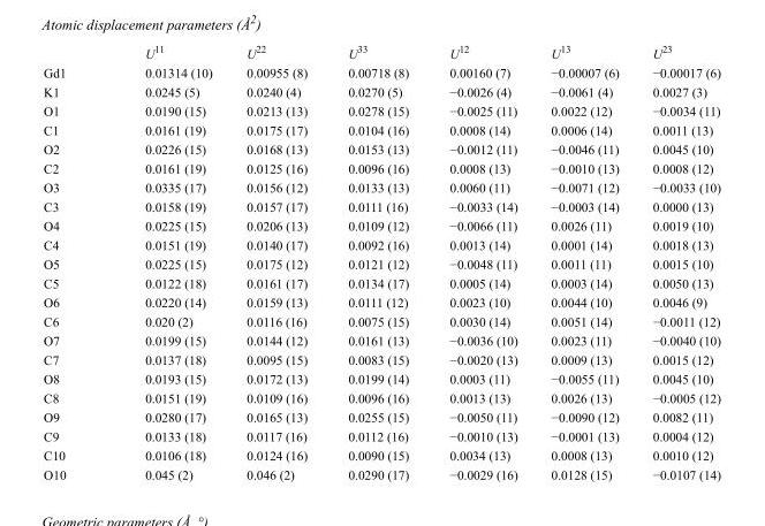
<table><thead><tr><td></td><td>U<sup>11</sup></td><td>U<sup>22</sup></td><td>U<sup>33</sup></td><td>U<sup>12</sup></td><td>U<sup>13</sup></td><td>U<sup>23</sup></td></tr></thead><tbody><tr><td>Gd1</td><td>0.01314 (10)</td><td>0.00955 (8)</td><td>0.00718 (8)</td><td>0.00160 (7)</td><td>−0.00007 (6)</td><td>−0.00017 (6)</td></tr><tr><td>K1</td><td>0.0245 (5)</td><td>0.0240 (4)</td><td>0.0270 (5)</td><td>−0.0026 (4)</td><td>−0.0061 (4)</td><td>0.0027 (3)</td></tr><tr><td>O1</td><td>0.0190 (15)</td><td>0.0213 (13)</td><td>0.0278 (15)</td><td>−0.0025 (11)</td><td>0.0022 (12)</td><td>−0.0034 (11)</td></tr><tr><td>C1</td><td>0.0161 (19)</td><td>0.0175 (17)</td><td>0.0104 (16)</td><td>0.0008 (14)</td><td>0.0006 (14)</td><td>0.0011 (13)</td></tr><tr><td>O2</td><td>0.0226 (15)</td><td>0.0168 (13)</td><td>0.0153 (13)</td><td>−0.0012 (11)</td><td>−0.0046 (11)</td><td>0.0045 (10)</td></tr><tr><td>C2</td><td>0.0161 (19)</td><td>0.0125 (16)</td><td>0.0096 (16)</td><td>0.0008 (13)</td><td>−0.0010 (13)</td><td>0.0008 (12)</td></tr><tr><td>O3</td><td>0.0335 (17)</td><td>0.0156 (12)</td><td>0.0133 (13)</td><td>0.0060 (11)</td><td>−0.0071 (12)</td><td>−0.0033 (10)</td></tr><tr><td>C3</td><td>0.0158 (19)</td><td>0.0157 (17)</td><td>0.0111 (16)</td><td>−0.0033 (14)</td><td>−0.0003 (14)</td><td>0.0000 (13)</td></tr><tr><td>O4</td><td>0.0225 (15)</td><td>0.0206 (13)</td><td>0.0109 (12)</td><td>−0.0066 (11)</td><td>0.0026 (11)</td><td>0.0019 (10)</td></tr><tr><td>C4</td><td>0.0151 (19)</td><td>0.0140 (17)</td><td>0.0092 (16)</td><td>0.0013 (14)</td><td>0.0001 (14)</td><td>0.0018 (13)</td></tr><tr><td>O5</td><td>0.0225 (15)</td><td>0.0175 (12)</td><td>0.0121 (12)</td><td>−0.0048 (11)</td><td>0.0011 (11)</td><td>0.0015 (10)</td></tr><tr><td>C5</td><td>0.0122 (18)</td><td>0.0161 (17)</td><td>0.0134 (17)</td><td>0.0005 (14)</td><td>0.0003 (14)</td><td>0.0050 (13)</td></tr><tr><td>O6</td><td>0.0220 (14)</td><td>0.0159 (13)</td><td>0.0111 (12)</td><td>0.0023 (10)</td><td>0.0044 (10)</td><td>0.0046 (9)</td></tr><tr><td>C6</td><td>0.020 (2)</td><td>0.0116 (16)</td><td>0.0075 (15)</td><td>0.0030 (14)</td><td>0.0051 (14)</td><td>−0.0011 (12)</td></tr><tr><td>O7</td><td>0.0199 (15)</td><td>0.0144 (12)</td><td>0.0161 (13)</td><td>−0.0036 (10)</td><td>0.0023 (11)</td><td>−0.0040 (10)</td></tr><tr><td>C7</td><td>0.0137 (18)</td><td>0.0095 (15)</td><td>0.0083 (15)</td><td>−0.0020 (13)</td><td>0.0009 (13)</td><td>0.0015 (12)</td></tr><tr><td>O8</td><td>0.0193 (15)</td><td>0.0172 (13)</td><td>0.0199 (14)</td><td>0.0003 (11)</td><td>−0.0055 (11)</td><td>0.0045 (10)</td></tr><tr><td>C8</td><td>0.0151 (19)</td><td>0.0109 (16)</td><td>0.0096 (16)</td><td>0.0013 (13)</td><td>0.0026 (13)</td><td>−0.0005 (12)</td></tr><tr><td>O9</td><td>0.0280 (17)</td><td>0.0165 (13)</td><td>0.0255 (15)</td><td>−0.0050 (11)</td><td>−0.0090 (12)</td><td>0.0082 (11)</td></tr><tr><td>C9</td><td>0.0133 (18)</td><td>0.0117 (16)</td><td>0.0112 (16)</td><td>−0.0010 (13)</td><td>−0.0001 (13)</td><td>0.0004 (12)</td></tr><tr><td>C10</td><td>0.0106 (18)</td><td>0.0124 (16)</td><td>0.0090 (15)</td><td>0.0034 (13)</td><td>0.0008 (13)</td><td>0.0010 (12)</td></tr><tr><td>O10</td><td>0.045 (2)</td><td>0.046 (2)</td><td>0.0290 (17)</td><td>−0.0029 (16)</td><td>0.0128 (15)</td><td>−0.0107 (14)</td></tr></tbody></table>